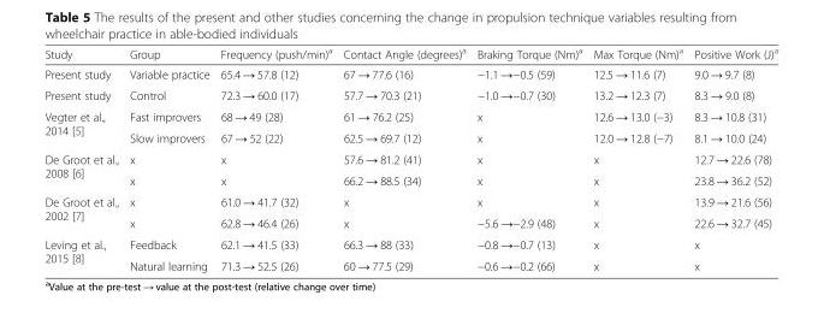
<table><thead><tr><td>Study</td><td>Group</td><td>Frequency (push/min)<sup>a</sup></td><td>Contact Angle (degrees)<sup>a</sup></td><td>Braking Torque (Nm)<sup>a</sup></td><td>Max Torque (Nm)<sup>a</sup></td><td>Positive Work (J)<sup>a</sup></td></tr></thead><tbody><tr><td>Present study</td><td>Variable practice</td><td>65.4 → 57.8 (12)</td><td>67 → 77.6 (16)</td><td>−1.1 →−0.5 (59)</td><td>12.5 → 11.6 (7)</td><td>9.0 → 9.7 (8)</td></tr><tr><td>Present study</td><td>Control</td><td>72.3 → 60.0 (17)</td><td>57.7 → 70.3 (21)</td><td>−1.0 →−0.7 (30)</td><td>13.2 → 12.3 (7)</td><td>8.3 → 9.0 (8)</td></tr><tr><td rowspan="2">Vegter et al., 2014 [5]</td><td>Fast improvers</td><td>68 → 49 (28)</td><td>61 → 76.2 (25)</td><td>x</td><td>12.6 → 13.0 (−3)</td><td>8.3 → 10.8 (31)</td></tr><tr><td>Slow improvers</td><td>67 → 52 (22)</td><td>62.5 → 69.7 (12)</td><td>x</td><td>12.0 → 12.8 (−7)</td><td>8.1 → 10.0 (24)</td></tr><tr><td rowspan="2">De Groot et al., 2008 [6]</td><td>x</td><td>x</td><td>57.6 → 81.2 (41)</td><td>x</td><td>x</td><td>12.7 → 22.6 (78)</td></tr><tr><td>x</td><td>x</td><td>66.2 → 88.5 (34)</td><td>x</td><td>x</td><td>23.8 → 36.2 (52)</td></tr><tr><td rowspan="2">De Groot et al., 2002 [7]</td><td>x</td><td>61.0 → 41.7 (32)</td><td>x</td><td>x</td><td>x</td><td>13.9 → 21.6 (56)</td></tr><tr><td>x</td><td>62.8 → 46.4 (26)</td><td>x</td><td>−5.6 →−2.9 (48)</td><td>x</td><td>22.6 → 32.7 (45)</td></tr><tr><td rowspan="2">Leving et al., 2015 [8]</td><td>Feedback</td><td>62.1 → 41.5 (33)</td><td>66.3 → 88 (33)</td><td>−0.8 →−0.7 (13)</td><td>x</td><td>x</td></tr><tr><td>Natural learning</td><td>71.3 → 52.5 (26)</td><td>60 → 77.5 (29)</td><td>−0.6 →−0.2 (66)</td><td>x</td><td>x</td></tr></tbody></table>